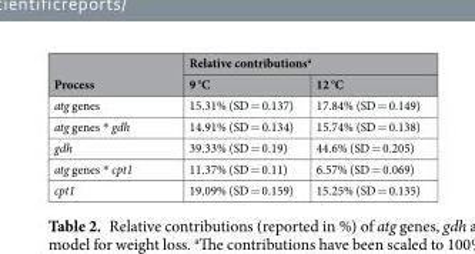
<table><thead><tr><td rowspan="2">Process</td><td colspan="2">Relative contributions<sup>a</sup></td></tr><tr><td>9 °C</td><td>12 °C</td></tr></thead><tbody><tr><td>atg genes</td><td>15.31% (SD = 0.137)</td><td>17.84% (SD = 0.149)</td></tr><tr><td>atg genes * gdh</td><td>14.91% (SD = 0.134)</td><td>15.74% (SD = 0.138)</td></tr><tr><td>gdh</td><td>39.33% (SD = 0.19)</td><td>44.6% (SD = 0.205)</td></tr><tr><td>atg genes * cpt1</td><td>11.37% (SD = 0.11)</td><td>6.57% (SD = 0.069)</td></tr><tr><td>cpt1</td><td>19.09% (SD = 0.159)</td><td>15.25% (SD = 0.135)</td></tr></tbody></table>